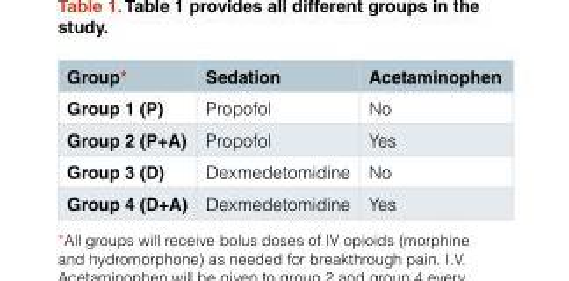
<table><thead><tr><td>Group*</td><td>Sedation</td><td>Acetaminophen</td></tr></thead><tbody><tr><td>Group 1 (P)</td><td>Propofol</td><td>No</td></tr><tr><td>Group 2 (P+A)</td><td>Propofol</td><td>Yes</td></tr><tr><td>Group 3 (D)</td><td>Dexmedetomidine</td><td>No</td></tr><tr><td>Group 4 (D+A)</td><td>Dexmedetomidine</td><td>Yes</td></tr></tbody></table>